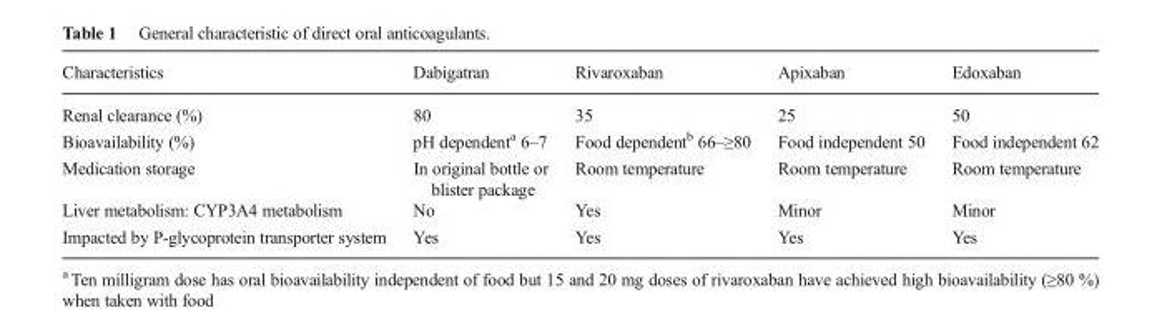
<table><thead><tr><td>Characteristics</td><td>Dabigatran</td><td>Rivaroxaban</td><td>Apixaban</td><td>Edoxaban</td></tr></thead><tbody><tr><td>Renal clearance (%)</td><td>80</td><td>35</td><td>25</td><td>50</td></tr><tr><td>Bioavailability (%)</td><td>pH dependent<sup>a</sup> 6–7</td><td>Food dependent<sup>b</sup> 66–≥80</td><td>Food independent 50</td><td>Food independent 62</td></tr><tr><td>Medication storage</td><td>In original bottle or blister package</td><td>Room temperature</td><td>Room temperature</td><td>Room temperature</td></tr><tr><td>Liver metabolism: CYP3A4 metabolism</td><td>No</td><td>Yes</td><td>Minor</td><td>Minor</td></tr><tr><td>Impacted by P-glycoprotein transporter system</td><td>Yes</td><td>Yes</td><td>Yes</td><td>Yes</td></tr></tbody></table>